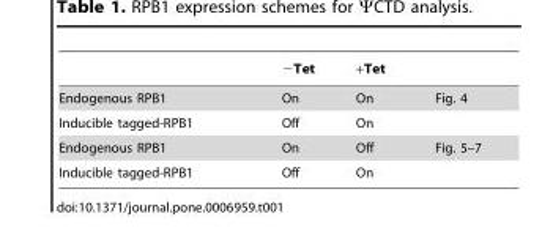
<table><thead><tr><td></td><td>−Tet</td><td>+Tet</td><td></td></tr></thead><tbody><tr><td>Endogenous RPB1</td><td>On</td><td>On</td><td>Fig. 4</td></tr><tr><td>Inducible tagged-RPB1</td><td>Off</td><td>On</td><td></td></tr><tr><td>Endogenous RPB1</td><td>On</td><td>Off</td><td>Fig. 5–7</td></tr><tr><td>Inducible tagged-RPB1</td><td>Off</td><td>On</td><td></td></tr></tbody></table>